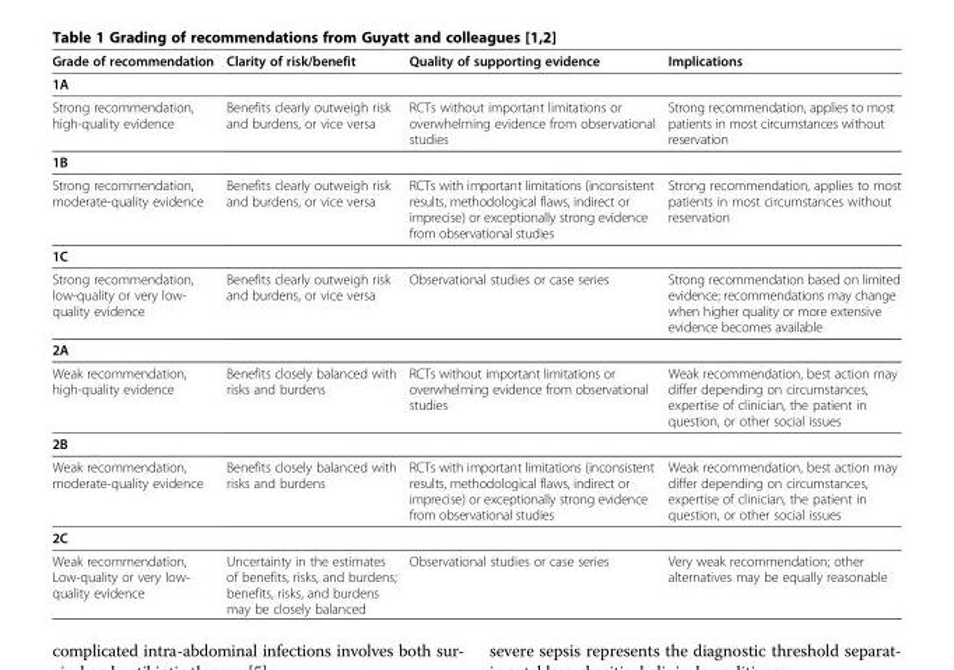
<table><thead><tr><td>Grade of recommendation</td><td>Clarity of risk/benefit</td><td>Quality of supporting evidence</td><td>Implications</td></tr></thead><tbody><tr><td colspan="4">1A</td></tr><tr><td>Strong recommendation, high-quality evidence</td><td>Benefits clearly outweigh risk and burdens, or vice versa</td><td>RCTs without important limitations or overwhelming evidence from observational studies</td><td>Strong recommendation, applies to most patients in most circumstances without reservation</td></tr><tr><td colspan="4">1B</td></tr><tr><td>Strong recommendation, moderate-quality evidence</td><td>Benefits clearly outweigh risk and burdens, or vice versa</td><td>RCTs with important limitations (inconsistent results, methodological flaws, indirect or imprecise) or exceptionally strong evidence from observational studies</td><td>Strong recommendation, applies to most patients in most circumstances without reservation</td></tr><tr><td colspan="4">1C</td></tr><tr><td>Strong recommendation, low-quality or very low- quality evidence</td><td>Benefits clearly outweigh risk and burdens, or vice versa</td><td>Observational studies or case series</td><td>Strong recommendation based on limited evidence; recommendations may change when higher quality or more extensive evidence becomes available</td></tr><tr><td colspan="4">2A</td></tr><tr><td>Weak recommendation, high-quality evidence</td><td>Benefits closely balanced with risks and burdens</td><td>RCTs without important limitations or overwhelming evidence from observational studies</td><td>Weak recommendation, best action may differ depending on circumstances, expertise of clinician, the patient in question, or other social issues</td></tr><tr><td colspan="4">2B</td></tr><tr><td>Weak recommendation, moderate-quality evidence</td><td>Benefits closely balanced with risks and burdens</td><td>RCTs with important limitations (inconsistent results, methodological flaws, indirect or imprecise) or exceptionally strong evidence from observational studies</td><td>Weak recommendation, best action may differ depending on circumstances, expertise of clinician, the patient in question, or other social issues</td></tr><tr><td colspan="4">2C</td></tr><tr><td>Weak recommendation, Low-quality or very low- quality evidence</td><td>Uncertainty in the estimates of benefits, risks, and burdens; benefits, risks, and burdens may be closely balanced</td><td>Observational studies or case series</td><td>Very weak recommendation; other alternatives may be equally reasonable</td></tr></tbody></table>